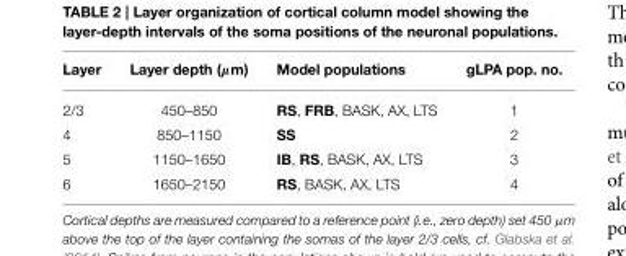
<table><thead><tr><td>Layer</td><td>Layer depth (µm)</td><td>Model populations</td><td>gLPA pop. no.</td></tr></thead><tbody><tr><td>2/3</td><td>450–850</td><td>RS, FRB, BASK, AX, LTS</td><td>1</td></tr><tr><td>4</td><td>850–1150</td><td>SS</td><td>2</td></tr><tr><td>5</td><td>1150–1650</td><td>IB, RS, BASK, AX, LTS</td><td>3</td></tr><tr><td>6</td><td>1650–2150</td><td>RS, BASK, AX, LTS</td><td>4</td></tr></tbody></table>